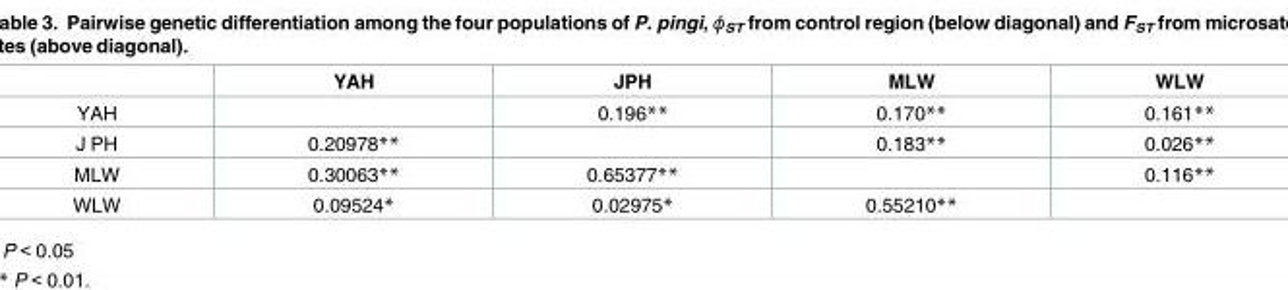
<table><thead><tr><td></td><td>YAH</td><td>JPH</td><td>MLW</td><td>WLW</td></tr></thead><tbody><tr><td>YAH</td><td></td><td>0.196**</td><td>0.170**</td><td>0.161**</td></tr><tr><td>J PH</td><td>0.20978**</td><td></td><td>0.183**</td><td>0.026**</td></tr><tr><td>MLW</td><td>0.30063**</td><td>0.65377**</td><td></td><td>0.116**</td></tr><tr><td>WLW</td><td>0.09524*</td><td>0.02975*</td><td>0.55210**</td><td></td></tr></tbody></table>